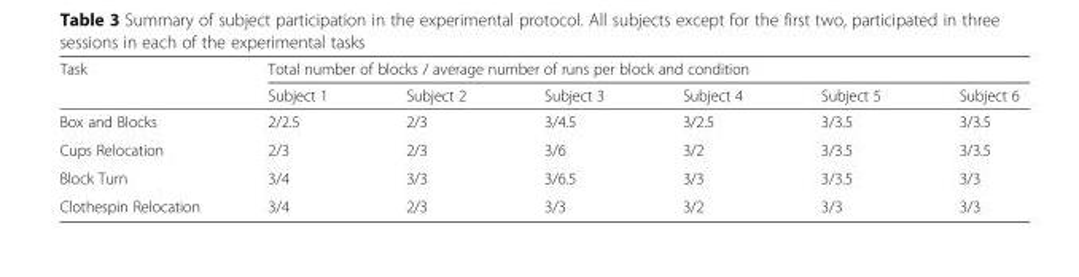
<table><thead><tr><td rowspan="2">Task</td><td colspan="6">Total number of blocks / average number of runs per block and condition</td></tr><tr><td>Subject 1</td><td>Subject 2</td><td>Subject 3</td><td>Subject 4</td><td>Subject 5</td><td>Subject 6</td></tr></thead><tbody><tr><td>Box and Blocks</td><td>2/2.5</td><td>2/3</td><td>3/4.5</td><td>3/2.5</td><td>3/3.5</td><td>3/3.5</td></tr><tr><td>Cups Relocation</td><td>2/3</td><td>2/3</td><td>3/6</td><td>3/2</td><td>3/3.5</td><td>3/3.5</td></tr><tr><td>Block Turn</td><td>3/4</td><td>3/3</td><td>3/6.5</td><td>3/3</td><td>3/3.5</td><td>3/3</td></tr><tr><td>Clothespin Relocation</td><td>3/4</td><td>2/3</td><td>3/3</td><td>3/2</td><td>3/3</td><td>3/3</td></tr></tbody></table>